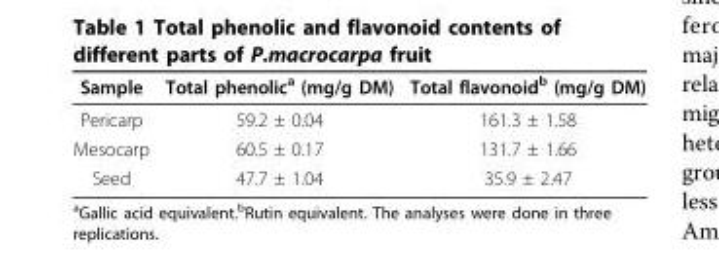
<table><thead><tr><td>Sample</td><td>Total phenolic<sup>a</sup> (mg/g DM)</td><td>Total flavonoid<sup>b</sup> (mg/g DM)</td></tr></thead><tbody><tr><td>Pericarp</td><td>59.2 ± 0.04</td><td>161.3 ± 1.58</td></tr><tr><td>Mesocarp</td><td>60.5 ± 0.17</td><td>131.7 ± 1.66</td></tr><tr><td>Seed</td><td>47.7 ± 1.04</td><td>35.9 ± 2.47</td></tr></tbody></table>